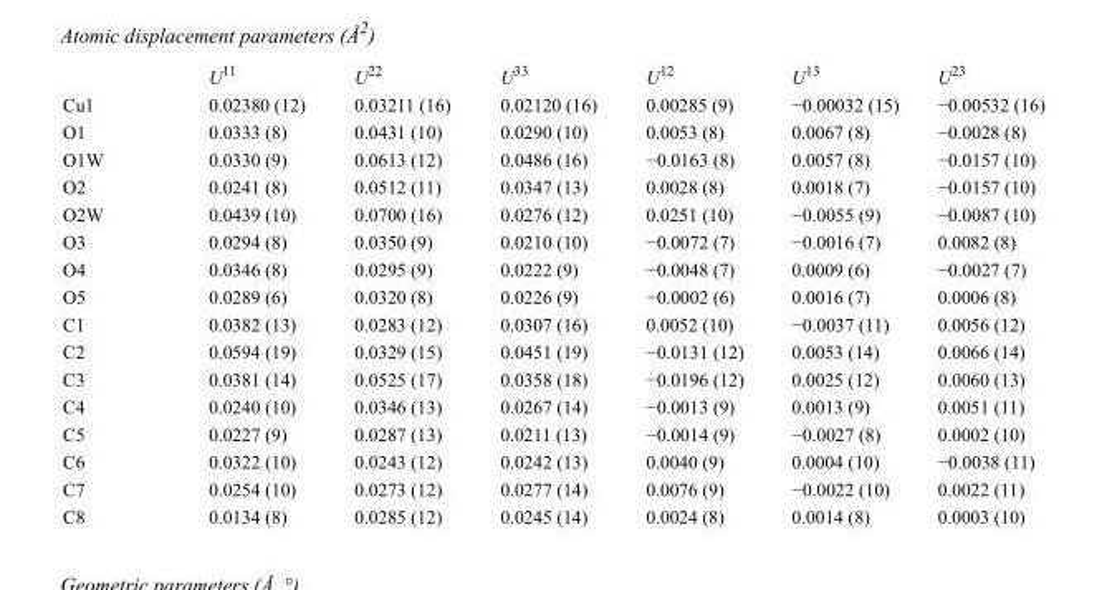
<table><thead><tr><td></td><td>U<sup>11</sup></td><td>U<sup>22</sup></td><td>U<sup>33</sup></td><td>U<sup>12</sup></td><td>U<sup>13</sup></td><td>U<sup>23</sup></td></tr></thead><tbody><tr><td>Cu1</td><td>0.02380 (12)</td><td>0.03211 (16)</td><td>0.02120 (16)</td><td>0.00285 (9)</td><td>−0.00032 (15)</td><td>−0.00532 (16)</td></tr><tr><td>O1</td><td>0.0333 (8)</td><td>0.0431 (10)</td><td>0.0290 (10)</td><td>0.0053 (8)</td><td>0.0067 (8)</td><td>−0.0028 (8)</td></tr><tr><td>O1W</td><td>0.0330 (9)</td><td>0.0613 (12)</td><td>0.0486 (16)</td><td>−0.0163 (8)</td><td>0.0057 (8)</td><td>−0.0157 (10)</td></tr><tr><td>O2</td><td>0.0241 (8)</td><td>0.0512 (11)</td><td>0.0347 (13)</td><td>0.0028 (8)</td><td>0.0018 (7)</td><td>−0.0157 (10)</td></tr><tr><td>O2W</td><td>0.0439 (10)</td><td>0.0700 (16)</td><td>0.0276 (12)</td><td>0.0251 (10)</td><td>−0.0055 (9)</td><td>−0.0087 (10)</td></tr><tr><td>O3</td><td>0.0294 (8)</td><td>0.0350 (9)</td><td>0.0210 (10)</td><td>−0.0072 (7)</td><td>−0.0016 (7)</td><td>0.0082 (8)</td></tr><tr><td>O4</td><td>0.0346 (8)</td><td>0.0295 (9)</td><td>0.0222 (9)</td><td>−0.0048 (7)</td><td>0.0009 (6)</td><td>−0.0027 (7)</td></tr><tr><td>O5</td><td>0.0289 (6)</td><td>0.0320 (8)</td><td>0.0226 (9)</td><td>−0.0002 (6)</td><td>0.0016 (7)</td><td>0.0006 (8)</td></tr><tr><td>C1</td><td>0.0382 (13)</td><td>0.0283 (12)</td><td>0.0307 (16)</td><td>0.0052 (10)</td><td>−0.0037 (11)</td><td>0.0056 (12)</td></tr><tr><td>C2</td><td>0.0594 (19)</td><td>0.0329 (15)</td><td>0.0451 (19)</td><td>−0.0131 (12)</td><td>0.0053 (14)</td><td>0.0066 (14)</td></tr><tr><td>C3</td><td>0.0381 (14)</td><td>0.0525 (17)</td><td>0.0358 (18)</td><td>−0.0196 (12)</td><td>0.0025 (12)</td><td>0.0060 (13)</td></tr><tr><td>C4</td><td>0.0240 (10)</td><td>0.0346 (13)</td><td>0.0267 (14)</td><td>−0.0013 (9)</td><td>0.0013 (9)</td><td>0.0051 (11)</td></tr><tr><td>C5</td><td>0.0227 (9)</td><td>0.0287 (13)</td><td>0.0211 (13)</td><td>−0.0014 (9)</td><td>−0.0027 (8)</td><td>0.0002 (10)</td></tr><tr><td>C6</td><td>0.0322 (10)</td><td>0.0243 (12)</td><td>0.0242 (13)</td><td>0.0040 (9)</td><td>0.0004 (10)</td><td>−0.0038 (11)</td></tr><tr><td>C7</td><td>0.0254 (10)</td><td>0.0273 (12)</td><td>0.0277 (14)</td><td>0.0076 (9)</td><td>−0.0022 (10)</td><td>0.0022 (11)</td></tr><tr><td>C8</td><td>0.0134 (8)</td><td>0.0285 (12)</td><td>0.0245 (14)</td><td>0.0024 (8)</td><td>0.0014 (8)</td><td>0.0003 (10)</td></tr></tbody></table>